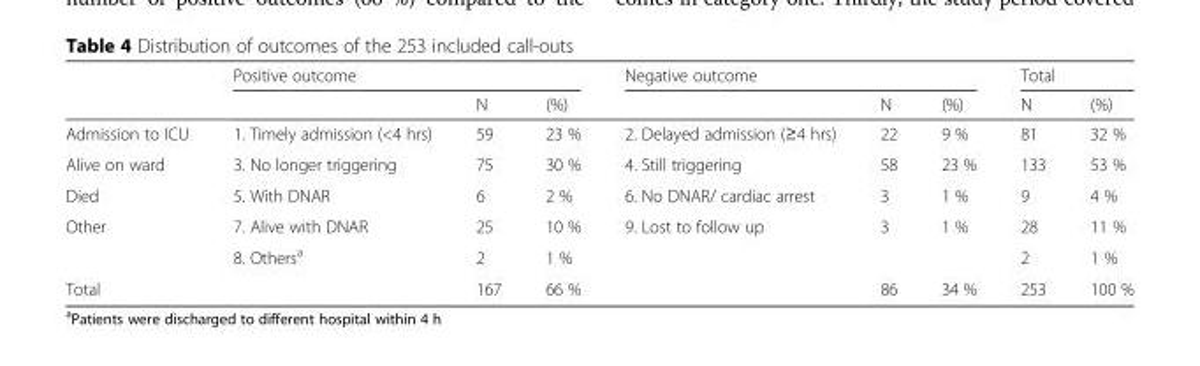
<table><thead><tr><td rowspan="2"></td><td colspan="3">Positive outcome</td><td colspan="3">Negative outcome</td><td colspan="2">Total</td></tr><tr><td></td><td>N</td><td>(%)</td><td></td><td>N</td><td>(%)</td><td>N</td><td>(%)</td></tr></thead><tbody><tr><td>Admission to ICU</td><td>1. Timely admission (&lt;4 hrs)</td><td>59</td><td>23 %</td><td>2. Delayed admission (≥4 hrs)</td><td>22</td><td>9 %</td><td>81</td><td>32 %</td></tr><tr><td>Alive on ward</td><td>3. No longer triggering</td><td>75</td><td>30 %</td><td>4. Still triggering</td><td>58</td><td>23 %</td><td>133</td><td>53 %</td></tr><tr><td>Died</td><td>5. With DNAR</td><td>6</td><td>2 %</td><td>6. No DNAR/ cardiac arrest</td><td>3</td><td>1 %</td><td>9</td><td>4 %</td></tr><tr><td rowspan="2">Other</td><td>7. Alive with DNAR</td><td>25</td><td>10 %</td><td>9. Lost to follow up</td><td>3</td><td>1 %</td><td>28</td><td>11 %</td></tr><tr><td>8. Others<sup>a</sup></td><td>2</td><td>1 %</td><td></td><td></td><td></td><td>2</td><td>1 %</td></tr><tr><td>Total</td><td></td><td>167</td><td>66 %</td><td></td><td>86</td><td>34 %</td><td>253</td><td>100 %</td></tr></tbody></table>